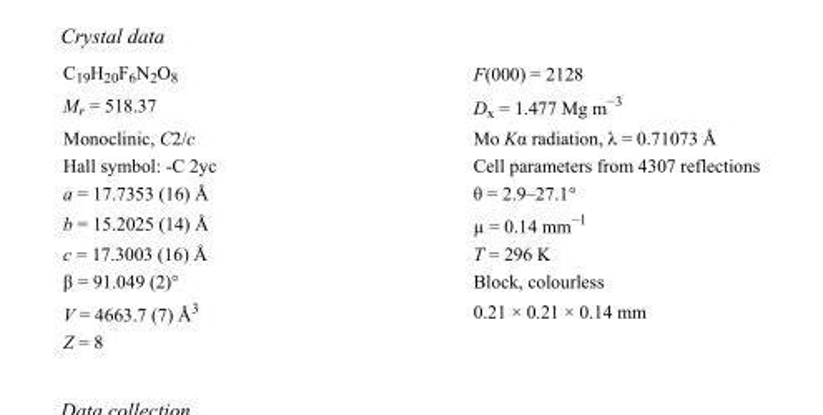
<table><tbody><tr><td>C<sub>19</sub>H<sub>20</sub>F<sub>6</sub>N<sub>2</sub>O<sub>8</sub></td><td>F(000) = 2128</td></tr><tr><td>M<sub>r</sub> = 518.37</td><td>D<sub>x</sub> = 1.477 Mg m<sup>−3</sup></td></tr><tr><td>Monoclinic, C2/c</td><td>Mo Kα radiation, λ = 0.71073 Å</td></tr><tr><td>Hall symbol: -C 2yc</td><td>Cell parameters from 4307 reflections</td></tr><tr><td>a = 17.7353 (16) Å</td><td>θ = 2.9–27.1°</td></tr><tr><td>b = 15.2025 (14) Å</td><td>µ = 0.14 mm<sup>−1</sup></td></tr><tr><td>c = 17.3003 (16) Å</td><td>T = 296 K</td></tr><tr><td>β = 91.049 (2)°</td><td>Block, colourless</td></tr><tr><td>V = 4663.7 (7) Å<sup>3</sup></td><td>0.21 × 0.21 × 0.14 mm</td></tr><tr><td>Z = 8</td><td></td></tr></tbody></table>